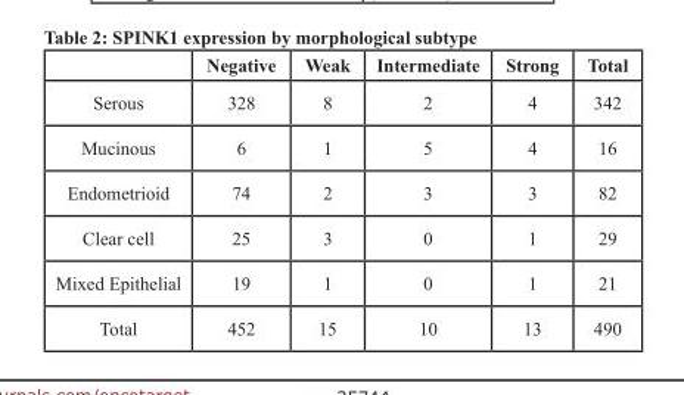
<table><thead><tr><td></td><td>Negative</td><td>Weak</td><td>Intermediate</td><td>Strong</td><td>Total</td></tr></thead><tbody><tr><td>Serous</td><td>328</td><td>8</td><td>2</td><td>4</td><td>342</td></tr><tr><td>Mucinous</td><td>6</td><td>1</td><td>5</td><td>4</td><td>16</td></tr><tr><td>Endometrioid</td><td>74</td><td>2</td><td>3</td><td>3</td><td>82</td></tr><tr><td>Clear cell</td><td>25</td><td>3</td><td>0</td><td>1</td><td>29</td></tr><tr><td>Mixed Epithelial</td><td>19</td><td>1</td><td>0</td><td>1</td><td>21</td></tr><tr><td>Total</td><td>452</td><td>15</td><td>10</td><td>13</td><td>490</td></tr></tbody></table>